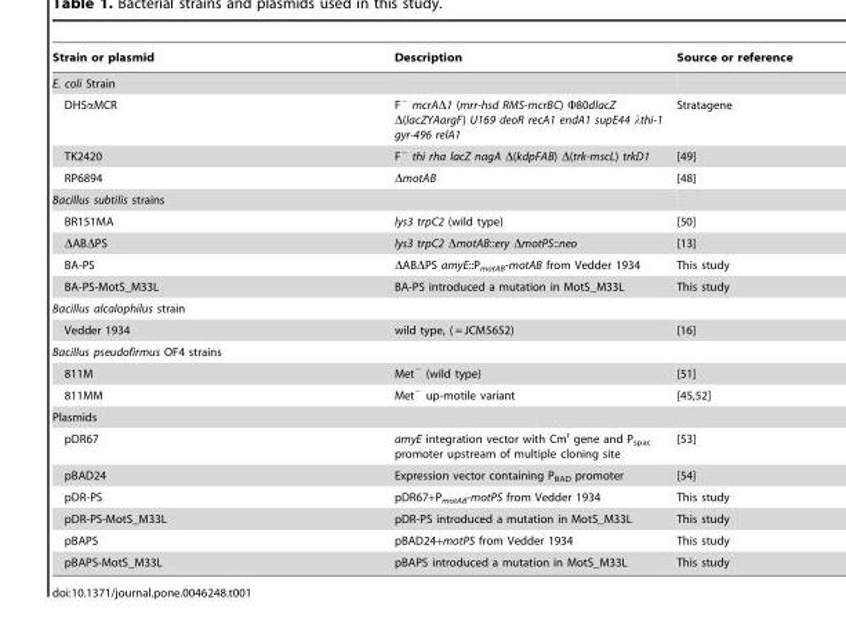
<table><thead><tr><td>Strain or plasmid</td><td>Description</td><td>Source or reference</td></tr></thead><tbody><tr><td colspan="3">E. coli Strain</td></tr><tr><td>DH5αMCR</td><td>F<sup>−</sup> mcrAΔ1 (mrr-hsd RMS-mcrBC) Φ80dlacZ Δ(lacZYAargF) U169 deoR recA1 endA1 supE44 λthi-1 gyr-496 relA1</td><td>Stratagene</td></tr><tr><td>TK2420</td><td>F<sup>−</sup> thi rha lacZ nagA Δ(kdpFAB) Δ(trk-mscL) trkD1</td><td>[49]</td></tr><tr><td>RP6894</td><td>ΔmotAB</td><td>[48]</td></tr><tr><td colspan="3">Bacillus subtilis strains</td></tr><tr><td>BR151MA</td><td>lys3 trpC2 (wild type)</td><td>[50]</td></tr><tr><td>ΔABΔPS</td><td>lys3 trpC2 ΔmotAB::ery ΔmotPS::neo</td><td>[13]</td></tr><tr><td>BA-PS</td><td>ΔABΔPS amyE::P<sub>motAB</sub>-motAB from Vedder 1934</td><td>This study</td></tr><tr><td>BA-PS-MotS_M33L</td><td>BA-PS introduced a mutation in MotS_M33L</td><td>This study</td></tr><tr><td colspan="3">Bacillus alcalophilus strain</td></tr><tr><td>Vedder 1934</td><td>wild type, ( = JCM5652)</td><td>[16]</td></tr><tr><td colspan="3">Bacillus pseudofirmus OF4 strains</td></tr><tr><td>811M</td><td>Met<sup>−</sup> (wild type)</td><td>[51]</td></tr><tr><td>811MM</td><td>Met<sup>−</sup> up-motile variant</td><td>[45,52]</td></tr><tr><td colspan="3">Plasmids</td></tr><tr><td>pDR67</td><td>amyE integration vector with Cm<sup>r</sup> gene and P<sub>spac</sub> promoter upstream of multiple cloning site</td><td>[53]</td></tr><tr><td>pBAD24</td><td>Expression vector containing P<sub>BAD</sub> promoter</td><td>[54]</td></tr><tr><td>pDR-PS</td><td>pDR67+P<sub>motAB</sub>-motPS from Vedder 1934</td><td>This study</td></tr><tr><td>pDR-PS-MotS_M33L</td><td>pDR-PS introduced a mutation in MotS_M33L</td><td>This study</td></tr><tr><td>pBAPS</td><td>pBAD24+motPS from Vedder 1934</td><td>This study</td></tr><tr><td>pBAPS-MotS_M33L</td><td>pBAPS introduced a mutation in MotS_M33L</td><td>This study</td></tr></tbody></table>